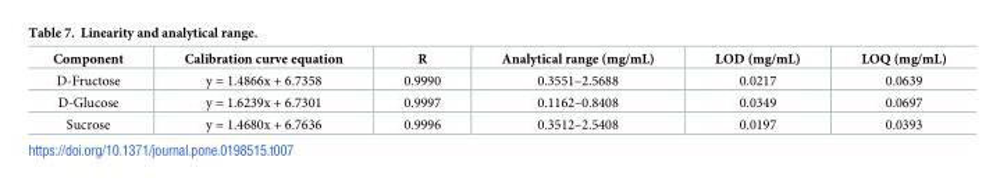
<table><thead><tr><td>Component</td><td>Calibration curve equation</td><td>R</td><td>Analytical range (mg/mL)</td><td>LOD (mg/mL)</td><td>LOQ (mg/mL)</td></tr></thead><tbody><tr><td>D-Fructose</td><td>y = 1.4866x + 6.7358</td><td>0.9990</td><td>0.3551–2.5688</td><td>0.0217</td><td>0.0639</td></tr><tr><td>D-Glucose</td><td>y = 1.6239x + 6.7301</td><td>0.9997</td><td>0.1162–0.8408</td><td>0.0349</td><td>0.0697</td></tr><tr><td>Sucrose</td><td>y = 1.4680x + 6.7636</td><td>0.9996</td><td>0.3512–2.5408</td><td>0.0197</td><td>0.0393</td></tr></tbody></table>